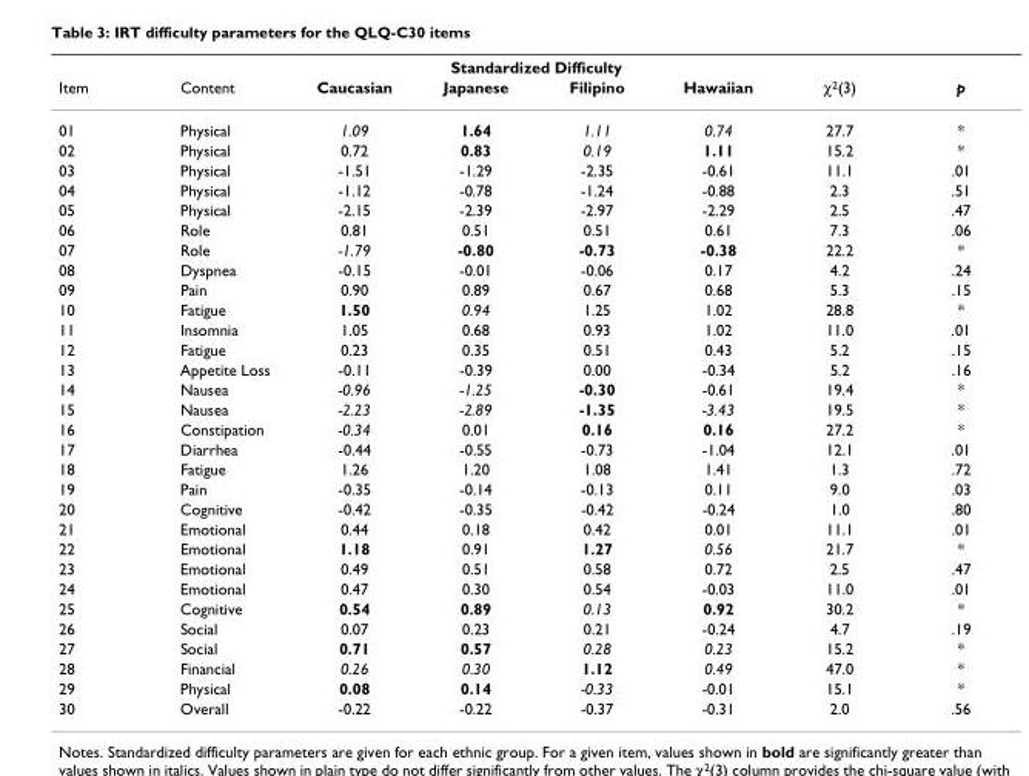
<table><thead><tr><td colspan="8">Standardized Difficulty</td></tr><tr><td>Item</td><td>Content</td><td>Caucasian</td><td>Japanese</td><td>Filipino</td><td>Hawaiian</td><td>χ<sup>2</sup>(3)</td><td>p</td></tr></thead><tbody><tr><td>01</td><td>Physical</td><td>1.09</td><td>1.64</td><td>1.11</td><td>0.74</td><td>27.7</td><td>*</td></tr><tr><td>02</td><td>Physical</td><td>0.72</td><td>0.83</td><td>0.19</td><td>1.11</td><td>15.2</td><td>*</td></tr><tr><td>03</td><td>Physical</td><td>-1.51</td><td>-1.29</td><td>-2.35</td><td>-0.61</td><td>11.1</td><td>.01</td></tr><tr><td>04</td><td>Physical</td><td>-1.12</td><td>-0.78</td><td>-1.24</td><td>-0.88</td><td>2.3</td><td>.51</td></tr><tr><td>05</td><td>Physical</td><td>-2.15</td><td>-2.39</td><td>-2.97</td><td>-2.29</td><td>2.5</td><td>.47</td></tr><tr><td>06</td><td>Role</td><td>0.81</td><td>0.51</td><td>0.51</td><td>0.61</td><td>7.3</td><td>.06</td></tr><tr><td>07</td><td>Role</td><td>-1.79</td><td>-0.80</td><td>-0.73</td><td>-0.38</td><td>22.2</td><td>*</td></tr><tr><td>08</td><td>Dyspnea</td><td>-0.15</td><td>-0.01</td><td>-0.06</td><td>0.17</td><td>4.2</td><td>.24</td></tr><tr><td>09</td><td>Pain</td><td>0.90</td><td>0.89</td><td>0.67</td><td>0.68</td><td>5.3</td><td>.15</td></tr><tr><td>10</td><td>Fatigue</td><td>1.50</td><td>0.94</td><td>1.25</td><td>1.02</td><td>28.8</td><td>*</td></tr><tr><td>11</td><td>Insomnia</td><td>1.05</td><td>0.68</td><td>0.93</td><td>1.02</td><td>11.0</td><td>.01</td></tr><tr><td>12</td><td>Fatigue</td><td>0.23</td><td>0.35</td><td>0.51</td><td>0.43</td><td>5.2</td><td>.15</td></tr><tr><td>13</td><td>Appetite Loss</td><td>-0.11</td><td>-0.39</td><td>0.00</td><td>-0.34</td><td>5.2</td><td>.16</td></tr><tr><td>14</td><td>Nausea</td><td>-0.96</td><td>-1.25</td><td>-0.30</td><td>-0.61</td><td>19.4</td><td>*</td></tr><tr><td>15</td><td>Nausea</td><td>-2.23</td><td>-2.89</td><td>-1.35</td><td>-3.43</td><td>19.5</td><td>*</td></tr><tr><td>16</td><td>Constipation</td><td>-0.34</td><td>0.01</td><td>0.16</td><td>0.16</td><td>27.2</td><td>*</td></tr><tr><td>17</td><td>Diarrhea</td><td>-0.44</td><td>-0.55</td><td>-0.73</td><td>-1.04</td><td>12.1</td><td>.01</td></tr><tr><td>18</td><td>Fatigue</td><td>1.26</td><td>1.20</td><td>1.08</td><td>1.41</td><td>1.3</td><td>.72</td></tr><tr><td>19</td><td>Pain</td><td>-0.35</td><td>-0.14</td><td>-0.13</td><td>0.11</td><td>9.0</td><td>.03</td></tr><tr><td>20</td><td>Cognitive</td><td>-0.42</td><td>-0.35</td><td>-0.42</td><td>-0.24</td><td>1.0</td><td>.80</td></tr><tr><td>21</td><td>Emotional</td><td>0.44</td><td>0.18</td><td>0.42</td><td>0.01</td><td>11.1</td><td>.01</td></tr><tr><td>22</td><td>Emotional</td><td>1.18</td><td>0.91</td><td>1.27</td><td>0.56</td><td>21.7</td><td>*</td></tr><tr><td>23</td><td>Emotional</td><td>0.49</td><td>0.51</td><td>0.58</td><td>0.72</td><td>2.5</td><td>.47</td></tr><tr><td>24</td><td>Emotional</td><td>0.47</td><td>0.30</td><td>0.54</td><td>-0.03</td><td>11.0</td><td>.01</td></tr><tr><td>25</td><td>Cognitive</td><td>0.54</td><td>0.89</td><td>0.13</td><td>0.92</td><td>30.2</td><td>*</td></tr><tr><td>26</td><td>Social</td><td>0.07</td><td>0.23</td><td>0.21</td><td>-0.24</td><td>4.7</td><td>.19</td></tr><tr><td>27</td><td>Social</td><td>0.71</td><td>0.57</td><td>0.28</td><td>0.23</td><td>15.2</td><td>*</td></tr><tr><td>28</td><td>Financial</td><td>0.26</td><td>0.30</td><td>1.12</td><td>0.49</td><td>47.0</td><td>*</td></tr><tr><td>29</td><td>Physical</td><td>0.08</td><td>0.14</td><td>-0.33</td><td>-0.01</td><td>15.1</td><td>*</td></tr><tr><td>30</td><td>Overall</td><td>-0.22</td><td>-0.22</td><td>-0.37</td><td>-0.31</td><td>2.0</td><td>.56</td></tr></tbody></table>